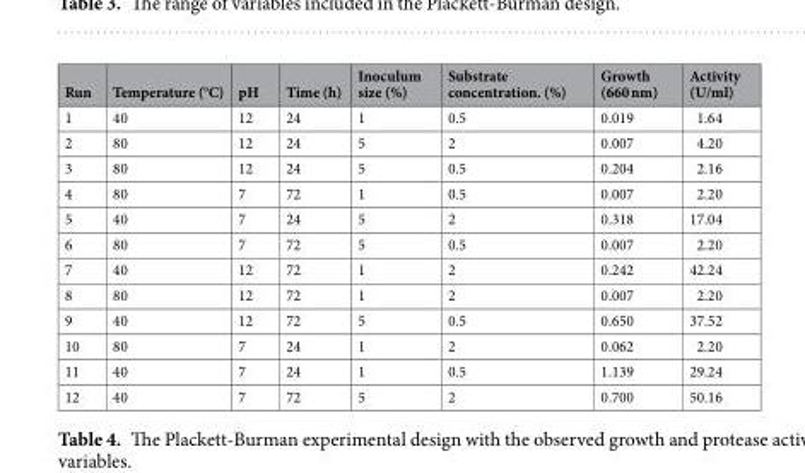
<table><thead><tr><td>Run</td><td>Temperature (°C)</td><td>pH</td><td>Time (h)</td><td>Inoculum size (%)</td><td>Substrate concentration. (%)</td><td>Growth (660 nm)</td><td>Activity (U/ml)</td></tr></thead><tbody><tr><td>1</td><td>40</td><td>12</td><td>24</td><td>1</td><td>0.5</td><td>0.019</td><td>1.64</td></tr><tr><td>2</td><td>80</td><td>12</td><td>24</td><td>5</td><td>2</td><td>0.007</td><td>4.20</td></tr><tr><td>3</td><td>80</td><td>12</td><td>24</td><td>5</td><td>0.5</td><td>0.204</td><td>2.16</td></tr><tr><td>4</td><td>80</td><td>7</td><td>72</td><td>1</td><td>0.5</td><td>0.007</td><td>2.20</td></tr><tr><td>5</td><td>40</td><td>7</td><td>24</td><td>5</td><td>2</td><td>0.318</td><td>17.04</td></tr><tr><td>6</td><td>80</td><td>7</td><td>72</td><td>5</td><td>0.5</td><td>0.007</td><td>2.20</td></tr><tr><td>7</td><td>40</td><td>12</td><td>72</td><td>1</td><td>2</td><td>0.242</td><td>42.24</td></tr><tr><td>8</td><td>80</td><td>12</td><td>72</td><td>1</td><td>2</td><td>0.007</td><td>2.20</td></tr><tr><td>9</td><td>40</td><td>12</td><td>72</td><td>5</td><td>0.5</td><td>0.650</td><td>37.52</td></tr><tr><td>10</td><td>80</td><td>7</td><td>24</td><td>1</td><td>2</td><td>0.062</td><td>2.20</td></tr><tr><td>11</td><td>40</td><td>7</td><td>24</td><td>1</td><td>0.5</td><td>1.139</td><td>29.24</td></tr><tr><td>12</td><td>40</td><td>7</td><td>72</td><td>5</td><td>2</td><td>0.700</td><td>50.16</td></tr></tbody></table>